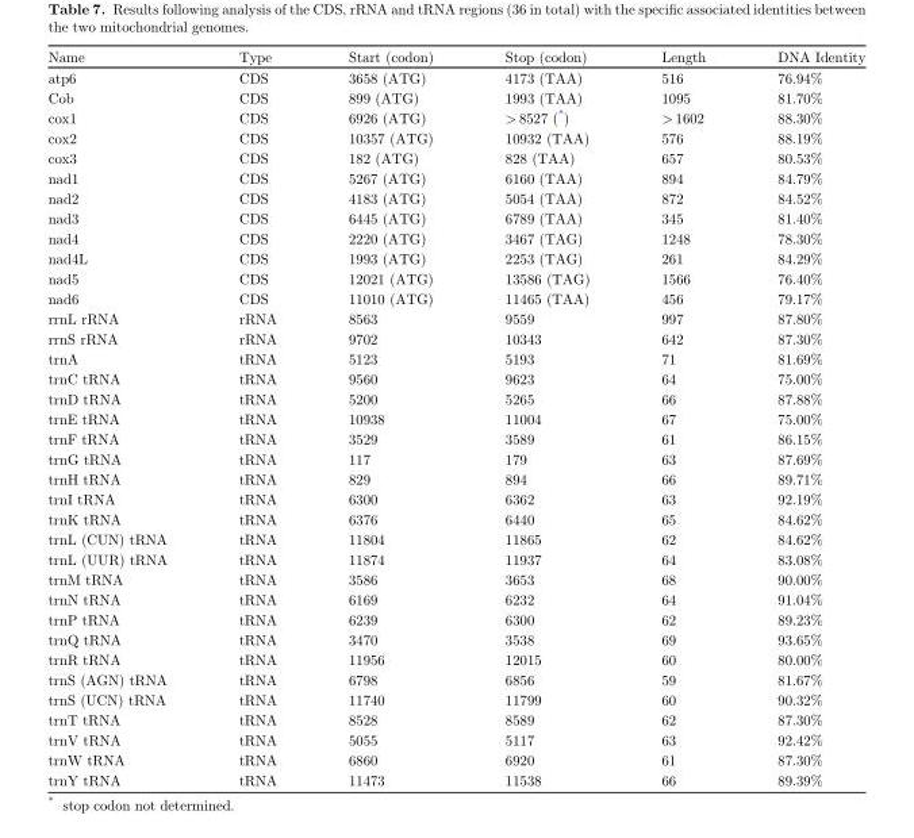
<table><thead><tr><td>Name</td><td>Type</td><td>Start (codon)</td><td>Stop (codon)</td><td>Length</td><td>DNA Identity</td></tr></thead><tbody><tr><td>atp6</td><td>CDS</td><td>3658 (ATG)</td><td>4173 (TAA)</td><td>516</td><td>76.94%</td></tr><tr><td>Cob</td><td>CDS</td><td>899 (ATG)</td><td>1993 (TAA)</td><td>1095</td><td>81.70%</td></tr><tr><td>cox1</td><td>CDS</td><td>6926 (ATG)</td><td>&gt; 8527 (*)</td><td>&gt; 1602</td><td>88.30%</td></tr><tr><td>cox2</td><td>CDS</td><td>10357 (ATG)</td><td>10932 (TAA)</td><td>576</td><td>88.19%</td></tr><tr><td>cox3</td><td>CDS</td><td>182 (ATG)</td><td>828 (TAA)</td><td>657</td><td>80.53%</td></tr><tr><td>nad1</td><td>CDS</td><td>5267 (ATG)</td><td>6160 (TAA)</td><td>894</td><td>84.79%</td></tr><tr><td>nad2</td><td>CDS</td><td>4183 (ATG)</td><td>5054 (TAA)</td><td>872</td><td>84.52%</td></tr><tr><td>nad3</td><td>CDS</td><td>6445 (ATG)</td><td>6789 (TAA)</td><td>345</td><td>81.40%</td></tr><tr><td>nad4</td><td>CDS</td><td>2220 (ATG)</td><td>3467 (TAG)</td><td>1248</td><td>78.30%</td></tr><tr><td>nad4L</td><td>CDS</td><td>1993 (ATG)</td><td>2253 (TAG)</td><td>261</td><td>84.29%</td></tr><tr><td>nad5</td><td>CDS</td><td>12021 (ATG)</td><td>13586 (TAG)</td><td>1566</td><td>76.40%</td></tr><tr><td>nad6</td><td>CDS</td><td>11010 (ATG)</td><td>11465 (TAA)</td><td>456</td><td>79.17%</td></tr><tr><td>rrnL rRNA</td><td>rRNA</td><td>8563</td><td>9559</td><td>997</td><td>87.80%</td></tr><tr><td>rrnS rRNA</td><td>rRNA</td><td>9702</td><td>10343</td><td>642</td><td>87.30%</td></tr><tr><td>trnA</td><td>tRNA</td><td>5123</td><td>5193</td><td>71</td><td>81.69%</td></tr><tr><td>trnC tRNA</td><td>tRNA</td><td>9560</td><td>9623</td><td>64</td><td>75.00%</td></tr><tr><td>trnD tRNA</td><td>tRNA</td><td>5200</td><td>5265</td><td>66</td><td>87.88%</td></tr><tr><td>trnE tRNA</td><td>tRNA</td><td>10938</td><td>11004</td><td>67</td><td>75.00%</td></tr><tr><td>trnF tRNA</td><td>tRNA</td><td>3529</td><td>3589</td><td>61</td><td>86.15%</td></tr><tr><td>trnG tRNA</td><td>tRNA</td><td>117</td><td>179</td><td>63</td><td>87.69%</td></tr><tr><td>trnH tRNA</td><td>tRNA</td><td>829</td><td>894</td><td>66</td><td>89.71%</td></tr><tr><td>trnI tRNA</td><td>tRNA</td><td>6300</td><td>6362</td><td>63</td><td>92.19%</td></tr><tr><td>trnK tRNA</td><td>tRNA</td><td>6376</td><td>6440</td><td>65</td><td>84.62%</td></tr><tr><td>trnL (CUN) tRNA</td><td>tRNA</td><td>11804</td><td>11865</td><td>62</td><td>84.62%</td></tr><tr><td>trnL (UUR) tRNA</td><td>tRNA</td><td>11874</td><td>11937</td><td>64</td><td>83.08%</td></tr><tr><td>trnM tRNA</td><td>tRNA</td><td>3586</td><td>3653</td><td>68</td><td>90.00%</td></tr><tr><td>trnN tRNA</td><td>tRNA</td><td>6169</td><td>6232</td><td>64</td><td>91.04%</td></tr><tr><td>trnP tRNA</td><td>tRNA</td><td>6239</td><td>6300</td><td>62</td><td>89.23%</td></tr><tr><td>trnQ tRNA</td><td>tRNA</td><td>3470</td><td>3538</td><td>69</td><td>93.65%</td></tr><tr><td>trnR tRNA</td><td>tRNA</td><td>11956</td><td>12015</td><td>60</td><td>80.00%</td></tr><tr><td>trnS (AGN) tRNA</td><td>tRNA</td><td>6798</td><td>6856</td><td>59</td><td>81.67%</td></tr><tr><td>trnS (UCN) tRNA</td><td>tRNA</td><td>11740</td><td>11799</td><td>60</td><td>90.32%</td></tr><tr><td>trnT tRNA</td><td>tRNA</td><td>8528</td><td>8589</td><td>62</td><td>87.30%</td></tr><tr><td>trnV tRNA</td><td>tRNA</td><td>5055</td><td>5117</td><td>63</td><td>92.42%</td></tr><tr><td>trnW tRNA</td><td>tRNA</td><td>6860</td><td>6920</td><td>61</td><td>87.30%</td></tr><tr><td>trnY tRNA</td><td>tRNA</td><td>11473</td><td>11538</td><td>66</td><td>89.39%</td></tr></tbody></table>